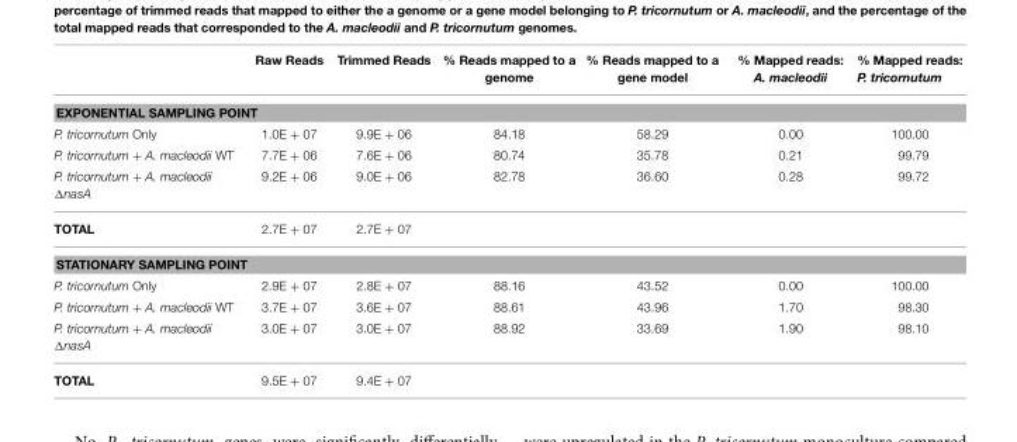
<table><thead><tr><td></td><td>Raw Reads</td><td>Trimmed Reads</td><td>% Reads mapped to a genome</td><td>% Reads mapped to a gene model</td><td>% Mapped reads: A. macleodii</td><td>% Mapped reads: P. tricornutum</td></tr></thead><tbody><tr><td colspan="7">EXPONENTIAL SAMPLING POINT</td></tr><tr><td>P. tricornutum Only</td><td>1.0E + 07</td><td>9.9E + 06</td><td>84.18</td><td>58.29</td><td>0.00</td><td>100.00</td></tr><tr><td>P. tricornutum + A. macleodii WT</td><td>7.7E + 06</td><td>7.6E + 06</td><td>80.74</td><td>35.78</td><td>0.21</td><td>99.79</td></tr><tr><td>P. tricornutum + A. macleodii ΔnasA</td><td>9.2E + 06</td><td>9.0E + 06</td><td>82.78</td><td>36.60</td><td>0.28</td><td>99.72</td></tr><tr><td>TOTAL</td><td>2.7E + 07</td><td>2.7E + 07</td><td></td><td></td><td></td><td></td></tr><tr><td colspan="7">STATIONARY SAMPLING POINT</td></tr><tr><td>P. tricornutum Only</td><td>2.9E + 07</td><td>2.8E + 07</td><td>88.16</td><td>43.52</td><td>0.00</td><td>100.00</td></tr><tr><td>P. tricornutum + A. macleodii WT</td><td>3.7E + 07</td><td>3.6E + 07</td><td>88.61</td><td>43.96</td><td>1.70</td><td>98.30</td></tr><tr><td>P. tricornutum + A. macleodii ΔnasA</td><td>3.0E + 07</td><td>3.0E + 07</td><td>88.92</td><td>33.69</td><td>1.90</td><td>98.10</td></tr><tr><td>TOTAL</td><td>9.5E + 07</td><td>9.4E + 07</td><td></td><td></td><td></td><td></td></tr></tbody></table>